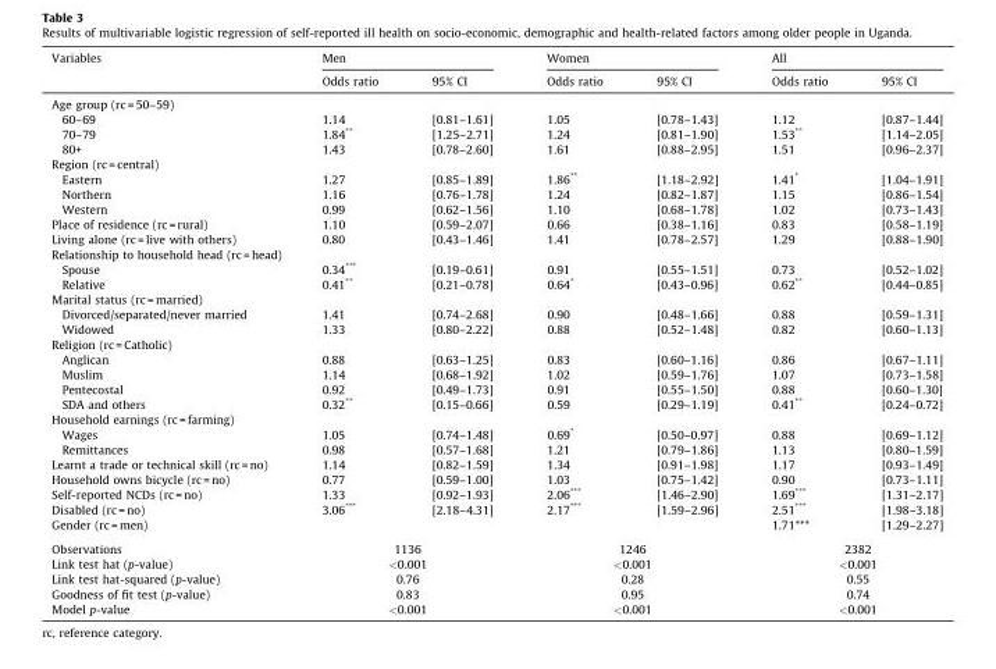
<table><thead><tr><td rowspan="2">Variables</td><td colspan="2">Men</td><td colspan="2">Women</td><td colspan="2">All</td></tr><tr><td>Odds ratio</td><td>95% CI</td><td>Odds ratio</td><td>95% CI</td><td>Odds ratio</td><td>95% CI</td></tr></thead><tbody><tr><td colspan="7">Age group (rc = 50–59)</td></tr><tr><td>60–69</td><td>1.14</td><td>[0.81–1.61]</td><td>1.05</td><td>[0.78–1.43]</td><td>1.12</td><td>[0.87–1.44]</td></tr><tr><td>70–79</td><td>1.84**</td><td>[1.25–2.71]</td><td>1.24</td><td>[0.81–1.90]</td><td>1.53**</td><td>[1.14–2.05]</td></tr><tr><td>80+</td><td>1.43</td><td>[0.78–2.60]</td><td>1.61</td><td>[0.88–2.95]</td><td>1.51</td><td>[0.96–2.37]</td></tr><tr><td colspan="7">Region (rc = central)</td></tr><tr><td>Eastern</td><td>1.27</td><td>[0.85–1.89]</td><td>1.86**</td><td>[1.18–2.92]</td><td>1.41*</td><td>[1.04–1.91]</td></tr><tr><td>Northern</td><td>1.16</td><td>[0.76–1.78]</td><td>1.24</td><td>[0.82–1.87]</td><td>1.15</td><td>[0.86–1.54]</td></tr><tr><td>Western</td><td>0.99</td><td>[0.62–1.56]</td><td>1.10</td><td>[0.68–1.78]</td><td>1.02</td><td>[0.73–1.43]</td></tr><tr><td>Place of residence (rc = rural)</td><td>1.10</td><td>[0.59–2.07]</td><td>0.66</td><td>[0.38–1.16]</td><td>0.83</td><td>[0.58–1.19]</td></tr><tr><td>Living alone (rc = live with others)</td><td>0.80</td><td>[0.43–1.46]</td><td>1.41</td><td>[0.78–2.57]</td><td>1.29</td><td>[0.88–1.90]</td></tr><tr><td colspan="7">Relationship to household head (rc = head)</td></tr><tr><td>Spouse</td><td>0.34***</td><td>[0.19–0.61]</td><td>0.91</td><td>[0.55–1.51]</td><td>0.73</td><td>[0.52–1.02]</td></tr><tr><td>Relative</td><td>0.41**</td><td>[0.21–0.78]</td><td>0.64*</td><td>[0.43–0.96]</td><td>0.62**</td><td>[0.44–0.85]</td></tr><tr><td colspan="7">Marital status (rc = married)</td></tr><tr><td>Divorced/separated/never married</td><td>1.41</td><td>[0.74–2.68]</td><td>0.90</td><td>[0.48–1.66]</td><td>0.88</td><td>[0.59–1.31]</td></tr><tr><td>Widowed</td><td>1.33</td><td>[0.80–2.22]</td><td>0.88</td><td>[0.52–1.48]</td><td>0.82</td><td>[0.60–1.13]</td></tr><tr><td colspan="7">Religion (rc = Catholic)</td></tr><tr><td>Anglican</td><td>0.88</td><td>[0.63–1.25]</td><td>0.83</td><td>[0.60–1.16]</td><td>0.86</td><td>[0.67–1.11]</td></tr><tr><td>Muslim</td><td>1.14</td><td>[0.68–1.92]</td><td>1.02</td><td>[0.59–1.76]</td><td>1.07</td><td>[0.73–1.58]</td></tr><tr><td>Pentecostal</td><td>0.92</td><td>[0.49–1.73]</td><td>0.91</td><td>[0.55–1.50]</td><td>0.88</td><td>[0.60–1.30]</td></tr><tr><td>SDA and others</td><td>0.32**</td><td>[0.15–0.66]</td><td>0.59</td><td>[0.29–1.19]</td><td>0.41**</td><td>[0.24–0.72]</td></tr><tr><td colspan="7">Household earnings (rc = farming)</td></tr><tr><td>Wages</td><td>1.05</td><td>[0.74–1.48]</td><td>0.69*</td><td>[0.50–0.97]</td><td>0.88</td><td>[0.69–1.12]</td></tr><tr><td>Remittances</td><td>0.98</td><td>[0.57–1.68]</td><td>1.21</td><td>[0.79–1.86]</td><td>1.13</td><td>[0.80–1.59]</td></tr><tr><td>Learnt a trade or technical skill (rc = no)</td><td>1.14</td><td>[0.82–1.59]</td><td>1.34</td><td>[0.91–1.98]</td><td>1.17</td><td>[0.93–1.49]</td></tr><tr><td>Household owns bicycle (rc = no)</td><td>0.77</td><td>[0.59–1.00]</td><td>1.03</td><td>[0.75–1.42]</td><td>0.90</td><td>[0.73–1.11]</td></tr><tr><td>Self-reported NCDs (rc = no)</td><td>1.33</td><td>[0.92–1.93]</td><td>2.06***</td><td>[1.46–2.90]</td><td>1.69***</td><td>[1.31–2.17]</td></tr><tr><td>Disabled (rc = no)</td><td>3.06***</td><td>[2.18–4.31]</td><td>2.17***</td><td>[1.59–2.96]</td><td>2.51***</td><td>[1.98–3.18]</td></tr><tr><td>Gender (rc = men)</td><td></td><td></td><td></td><td></td><td>1.71***</td><td>[1.29–2.27]</td></tr><tr><td>Observations</td><td colspan="2">1136</td><td colspan="2">1246</td><td colspan="2">2382</td></tr><tr><td>Link test hat (p-value)</td><td colspan="2">&lt;0.001</td><td colspan="2">&lt;0.001</td><td colspan="2">&lt;0.001</td></tr><tr><td>Link test hat-squared (p-value)</td><td colspan="2">0.76</td><td colspan="2">0.28</td><td colspan="2">0.55</td></tr><tr><td>Goodness of fit test (p-value)</td><td colspan="2">0.83</td><td colspan="2">0.95</td><td colspan="2">0.74</td></tr><tr><td>Model p-value</td><td colspan="2">&lt;0.001</td><td colspan="2">&lt;0.001</td><td colspan="2">&lt;0.001</td></tr></tbody></table>